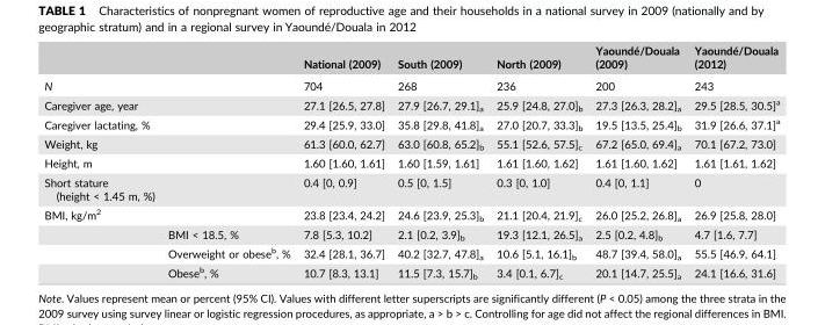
<table><thead><tr><td></td><td></td><td>National (2009)</td><td>South (2009)</td><td>North (2009)</td><td>Yaoundé/Douala (2009)</td><td>Yaoundé/Douala (2012)</td></tr></thead><tbody><tr><td>N</td><td></td><td>704</td><td>268</td><td>236</td><td>200</td><td>243</td></tr><tr><td>Caregiver age, year</td><td></td><td>27.1 [26.5, 27.8]</td><td>27.9 [26.7, 29.1]<sub>a</sub></td><td>25.9 [24.8, 27.0]<sub>b</sub></td><td>27.3 [26.3, 28.2]<sub>a</sub></td><td>29.5 [28.5, 30.5]<sup>a</sup></td></tr><tr><td>Caregiver lactating, %</td><td></td><td>29.4 [25.9, 33.0]</td><td>35.8 [29.8, 41.8]<sub>a</sub></td><td>27.0 [20.7, 33.3]<sub>b</sub></td><td>19.5 [13.5, 25.4]<sub>b</sub></td><td>31.9 [26.6, 37.1]<sup>a</sup></td></tr><tr><td>Weight, kg</td><td></td><td>61.3 [60.0, 62.7]</td><td>63.0 [60.8, 65.2]<sub>b</sub></td><td>55.1 [52.6, 57.5]<sub>c</sub></td><td>67.2 [65.0, 69.4]<sub>a</sub></td><td>70.1 [67.2, 73.0]</td></tr><tr><td>Height, m</td><td></td><td>1.60 [1.60, 1.61]</td><td>1.60 [1.59, 1.61]</td><td>1.61 [1.60, 1.62]</td><td>1.61 [1.60, 1.62]</td><td>1.61 [1.61, 1.62]</td></tr><tr><td>Short stature (height &lt; 1.45 m, %)</td><td></td><td>0.4 [0, 0.9]</td><td>0.5 [0, 1.5]</td><td>0.3 [0, 1.0]</td><td>0.4 [0, 1.1]</td><td>0</td></tr><tr><td rowspan="4">BMI, kg/m<sup>2</sup></td><td></td><td>23.8 [23.4, 24.2]</td><td>24.6 [23.9, 25.3]<sub>b</sub></td><td>21.1 [20.4, 21.9]<sub>c</sub></td><td>26.0 [25.2, 26.8]<sub>a</sub></td><td>26.9 [25.8, 28.0]</td></tr><tr><td>BMI &lt; 18.5, %</td><td>7.8 [5.3, 10.2]</td><td>2.1 [0.2, 3.9]<sub>b</sub></td><td>19.3 [12.1, 26.5]<sub>a</sub></td><td>2.5 [0.2, 4.8]<sub>b</sub></td><td>4.7 [1.6, 7.7]</td></tr><tr><td>Overweight or obese<sup>b</sup>, %</td><td>32.4 [28.1, 36.7]</td><td>40.2 [32.7, 47.8]<sub>a</sub></td><td>10.6 [5.1, 16.1]<sub>b</sub></td><td>48.7 [39.4, 58.0]<sub>a</sub></td><td>55.5 [46.9, 64.1]</td></tr><tr><td>Obese<sup>b</sup>, %</td><td>10.7 [8.3, 13.1]</td><td>11.5 [7.3, 15.7]<sub>b</sub></td><td>3.4 [0.1, 6.7]<sub>c</sub></td><td>20.1 [14.7, 25.5]<sub>a</sub></td><td>24.1 [16.6, 31.6]</td></tr></tbody></table>